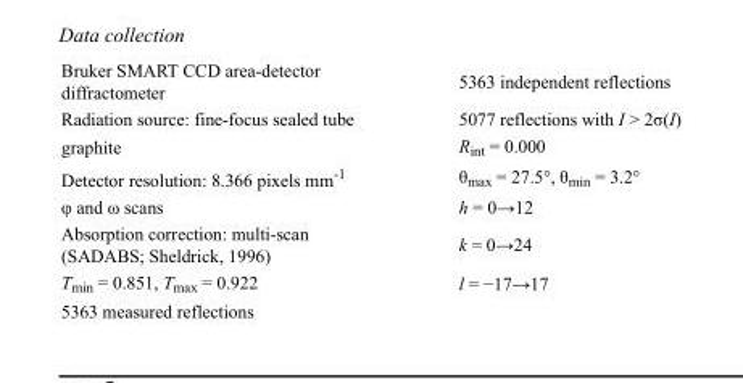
<table><tbody><tr><td>Bruker SMART CCD area-detector diffractometer</td><td>5363 independent reflections</td></tr><tr><td>Radiation source: fine-focus sealed tube</td><td>5077 reflections with I &gt; 2σ(I)</td></tr><tr><td>graphite</td><td>Rint = 0.000</td></tr><tr><td>Detector resolution: 8.366 pixels mm<sup>-1</sup></td><td>θ<sub>max</sub> = 27.5°, θ<sub>min</sub> = 3.2°</td></tr><tr><td>φ and ω scans</td><td>h = 0→12</td></tr><tr><td>Absorption correction: multi-scan (SADABS; Sheldrick, 1996)</td><td>k = 0→24</td></tr><tr><td>T<sub>min</sub> = 0.851, T<sub>max</sub> = 0.922</td><td>l = −17→17</td></tr><tr><td>5363 measured reflections</td><td></td></tr></tbody></table>